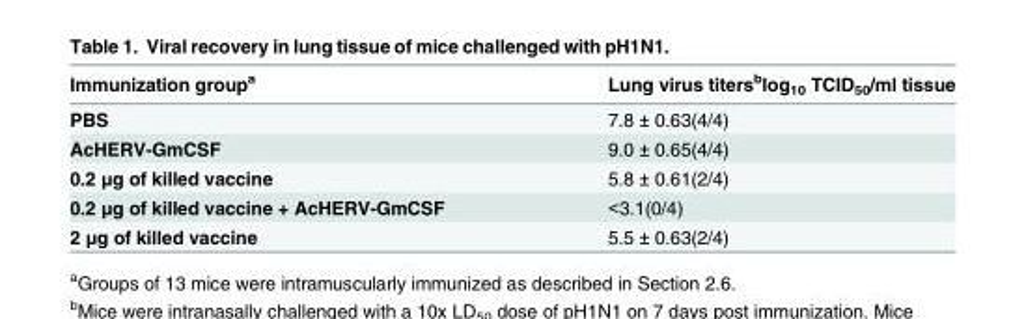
<table><thead><tr><td>Immunization group<sup>a</sup></td><td>Lung virus titers<sup>b</sup>log<sub>10</sub> TCID<sub>50</sub>/ml tissue</td></tr></thead><tbody><tr><td>PBS</td><td>7.8 ± 0.63(4/4)</td></tr><tr><td>AcHERV-GmCSF</td><td>9.0 ± 0.65(4/4)</td></tr><tr><td>0.2 μg of killed vaccine</td><td>5.8 ± 0.61(2/4)</td></tr><tr><td>0.2 μg of killed vaccine + AcHERV-GmCSF</td><td>&lt;3.1(0/4)</td></tr><tr><td>2 μg of killed vaccine</td><td>5.5 ± 0.63(2/4)</td></tr></tbody></table>